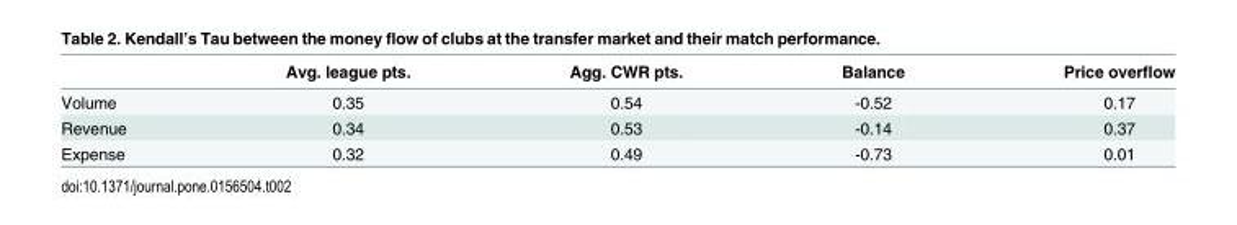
<table><thead><tr><td></td><td>Avg. league pts.</td><td>Agg. CWR pts.</td><td>Balance</td><td>Price overflow</td></tr></thead><tbody><tr><td>Volume</td><td>0.35</td><td>0.54</td><td>-0.52</td><td>0.17</td></tr><tr><td>Revenue</td><td>0.34</td><td>0.53</td><td>-0.14</td><td>0.37</td></tr><tr><td>Expense</td><td>0.32</td><td>0.49</td><td>-0.73</td><td>0.01</td></tr></tbody></table>